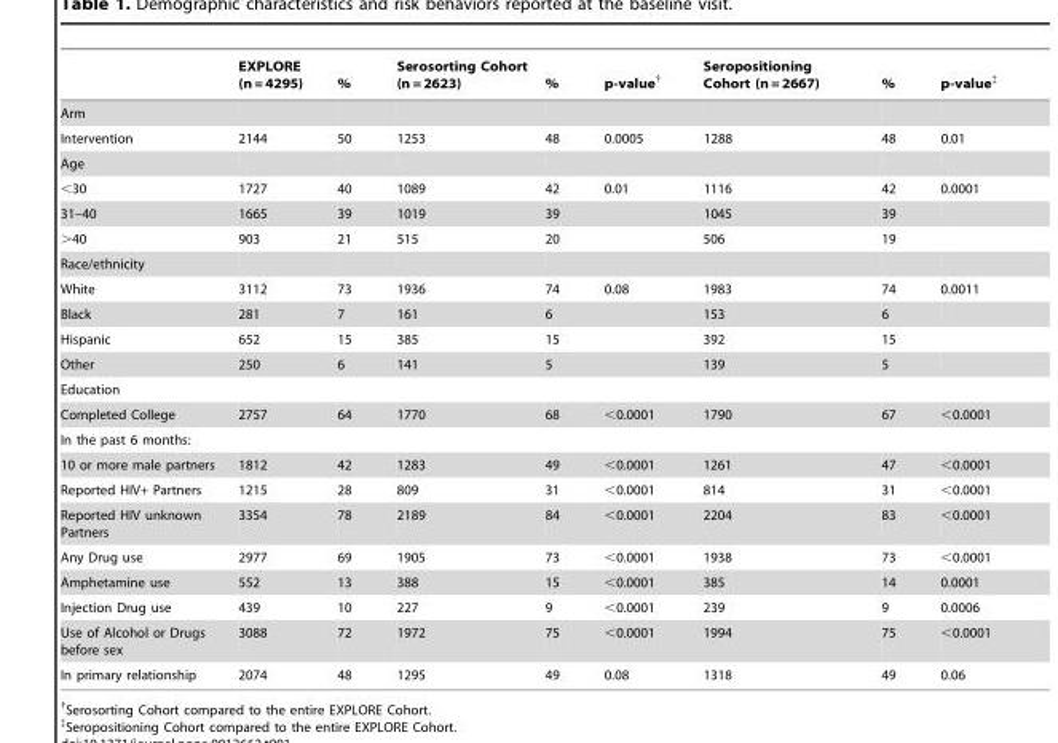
<table><thead><tr><td></td><td>EXPLORE (n = 4295)</td><td>%</td><td>Serosorting Cohort (n = 2623)</td><td>%</td><td>p-value†</td><td>Seropositioning Cohort (n = 2667)</td><td>%</td><td>p-value‡</td></tr></thead><tbody><tr><td colspan="9">Arm</td></tr><tr><td>Intervention</td><td>2144</td><td>50</td><td>1253</td><td>48</td><td>0.0005</td><td>1288</td><td>48</td><td>0.01</td></tr><tr><td colspan="9">Age</td></tr><tr><td>&lt;30</td><td>1727</td><td>40</td><td>1089</td><td>42</td><td>0.01</td><td>1116</td><td>42</td><td>0.0001</td></tr><tr><td>31–40</td><td>1665</td><td>39</td><td>1019</td><td>39</td><td></td><td>1045</td><td>39</td><td></td></tr><tr><td>&gt;40</td><td>903</td><td>21</td><td>515</td><td>20</td><td></td><td>506</td><td>19</td><td></td></tr><tr><td colspan="9">Race/ethnicity</td></tr><tr><td>White</td><td>3112</td><td>73</td><td>1936</td><td>74</td><td>0.08</td><td>1983</td><td>74</td><td>0.0011</td></tr><tr><td>Black</td><td>281</td><td>7</td><td>161</td><td>6</td><td></td><td>153</td><td>6</td><td></td></tr><tr><td>Hispanic</td><td>652</td><td>15</td><td>385</td><td>15</td><td></td><td>392</td><td>15</td><td></td></tr><tr><td>Other</td><td>250</td><td>6</td><td>141</td><td>5</td><td></td><td>139</td><td>5</td><td></td></tr><tr><td colspan="9">Education</td></tr><tr><td>Completed College</td><td>2757</td><td>64</td><td>1770</td><td>68</td><td>&lt;0.0001</td><td>1790</td><td>67</td><td>&lt;0.0001</td></tr><tr><td colspan="9">In the past 6 months:</td></tr><tr><td>10 or more male partners</td><td>1812</td><td>42</td><td>1283</td><td>49</td><td>&lt;0.0001</td><td>1261</td><td>47</td><td>&lt;0.0001</td></tr><tr><td>Reported HIV+ Partners</td><td>1215</td><td>28</td><td>809</td><td>31</td><td>&lt;0.0001</td><td>814</td><td>31</td><td>&lt;0.0001</td></tr><tr><td>Reported HIV unknown Partners</td><td>3354</td><td>78</td><td>2189</td><td>84</td><td>&lt;0.0001</td><td>2204</td><td>83</td><td>&lt;0.0001</td></tr><tr><td>Any Drug use</td><td>2977</td><td>69</td><td>1905</td><td>73</td><td>&lt;0.0001</td><td>1938</td><td>73</td><td>&lt;0.0001</td></tr><tr><td>Amphetamine use</td><td>552</td><td>13</td><td>388</td><td>15</td><td>&lt;0.0001</td><td>385</td><td>14</td><td>0.0001</td></tr><tr><td>Injection Drug use</td><td>439</td><td>10</td><td>227</td><td>9</td><td>&lt;0.0001</td><td>239</td><td>9</td><td>0.0006</td></tr><tr><td>Use of Alcohol or Drugs before sex</td><td>3088</td><td>72</td><td>1972</td><td>75</td><td>&lt;0.0001</td><td>1994</td><td>75</td><td>&lt;0.0001</td></tr><tr><td>In primary relationship</td><td>2074</td><td>48</td><td>1295</td><td>49</td><td>0.08</td><td>1318</td><td>49</td><td>0.06</td></tr></tbody></table>